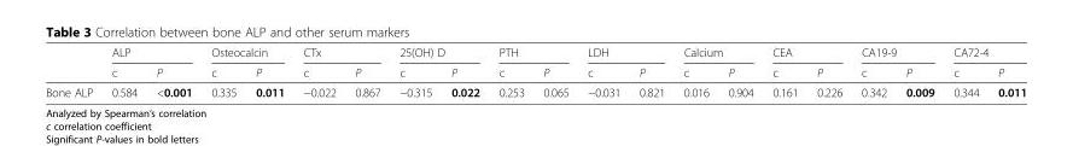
<table><thead><tr><td rowspan="2"></td><td colspan="2">ALP</td><td colspan="2">Osteocalcin</td><td colspan="2">CTx</td><td colspan="2">25(OH) D</td><td colspan="2">PTH</td><td colspan="2">LDH</td><td colspan="2">Calcium</td><td colspan="2">CEA</td><td colspan="2">CA19-9</td><td colspan="2">CA72-4</td></tr><tr><td>c</td><td>P</td><td>c</td><td>P</td><td>c</td><td>P</td><td>c</td><td>P</td><td>c</td><td>P</td><td>c</td><td>P</td><td>c</td><td>P</td><td>c</td><td>P</td><td>c</td><td>P</td><td>c</td><td>P</td></tr></thead><tbody><tr><td>Bone ALP</td><td>0.584</td><td>&lt;0.001</td><td>0.335</td><td>0.011</td><td>−0.022</td><td>0.867</td><td>−0.315</td><td>0.022</td><td>0.253</td><td>0.065</td><td>−0.031</td><td>0.821</td><td>0.016</td><td>0.904</td><td>0.161</td><td>0.226</td><td>0.342</td><td>0.009</td><td>0.344</td><td>0.011</td></tr></tbody></table>